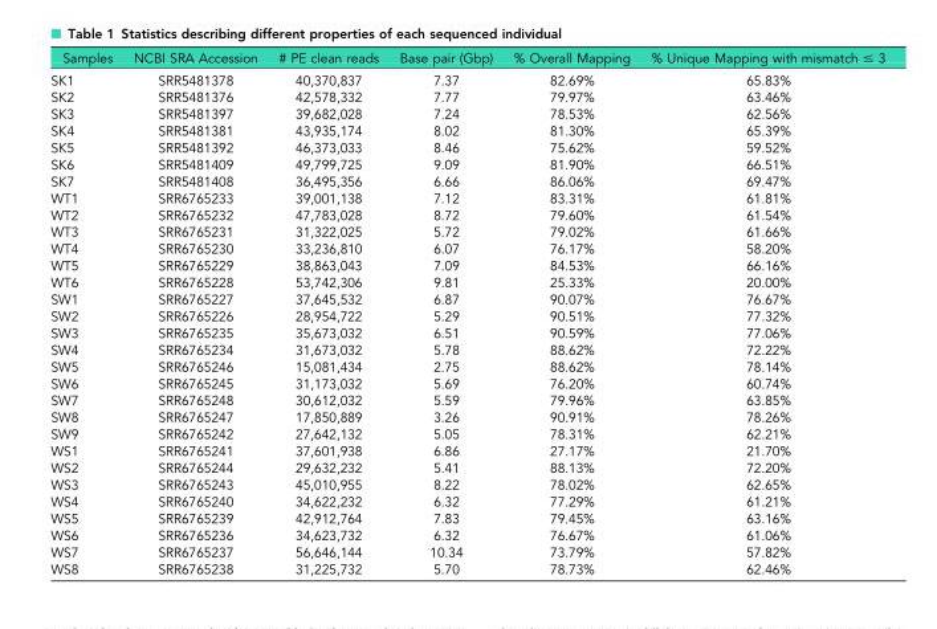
<table><thead><tr><td>Samples</td><td>NCBI SRA Accession</td><td># PE clean reads</td><td>Base pair (Gbp)</td><td>% Overall Mapping</td><td>% Unique Mapping with mismatch ≤ 3</td></tr></thead><tbody><tr><td>SK1</td><td>SRR5481378</td><td>40,370,837</td><td>7.37</td><td>82.69%</td><td>65.83%</td></tr><tr><td>SK2</td><td>SRR5481376</td><td>42,578,332</td><td>7.77</td><td>79.97%</td><td>63.46%</td></tr><tr><td>SK3</td><td>SRR5481397</td><td>39,682,028</td><td>7.24</td><td>78.53%</td><td>62.56%</td></tr><tr><td>SK4</td><td>SRR5481381</td><td>43,935,174</td><td>8.02</td><td>81.30%</td><td>65.39%</td></tr><tr><td>SK5</td><td>SRR5481392</td><td>46,373,033</td><td>8.46</td><td>75.62%</td><td>59.52%</td></tr><tr><td>SK6</td><td>SRR5481409</td><td>49,799,725</td><td>9.09</td><td>81.90%</td><td>66.51%</td></tr><tr><td>SK7</td><td>SRR5481408</td><td>36,495,356</td><td>6.66</td><td>86.06%</td><td>69.47%</td></tr><tr><td>WT1</td><td>SRR6765233</td><td>39,001,138</td><td>7.12</td><td>83.31%</td><td>61.81%</td></tr><tr><td>WT2</td><td>SRR6765232</td><td>47,783,028</td><td>8.72</td><td>79.60%</td><td>61.54%</td></tr><tr><td>WT3</td><td>SRR6765231</td><td>31,322,025</td><td>5.72</td><td>79.02%</td><td>61.66%</td></tr><tr><td>WT4</td><td>SRR6765230</td><td>33,236,810</td><td>6.07</td><td>76.17%</td><td>58.20%</td></tr><tr><td>WT5</td><td>SRR6765229</td><td>38,863,043</td><td>7.09</td><td>84.53%</td><td>66.16%</td></tr><tr><td>WT6</td><td>SRR6765228</td><td>53,742,306</td><td>9.81</td><td>25.33%</td><td>20.00%</td></tr><tr><td>SW1</td><td>SRR6765227</td><td>37,645,532</td><td>6.87</td><td>90.07%</td><td>76.67%</td></tr><tr><td>SW2</td><td>SRR6765226</td><td>28,954,722</td><td>5.29</td><td>90.51%</td><td>77.32%</td></tr><tr><td>SW3</td><td>SRR6765235</td><td>35,673,032</td><td>6.51</td><td>90.59%</td><td>77.06%</td></tr><tr><td>SW4</td><td>SRR6765234</td><td>31,673,032</td><td>5.78</td><td>88.62%</td><td>72.22%</td></tr><tr><td>SW5</td><td>SRR6765246</td><td>15,081,434</td><td>2.75</td><td>88.62%</td><td>78.14%</td></tr><tr><td>SW6</td><td>SRR6765245</td><td>31,173,032</td><td>5.69</td><td>76.20%</td><td>60.74%</td></tr><tr><td>SW7</td><td>SRR6765248</td><td>30,612,032</td><td>5.59</td><td>79.96%</td><td>63.85%</td></tr><tr><td>SW8</td><td>SRR6765247</td><td>17,850,889</td><td>3.26</td><td>90.91%</td><td>78.26%</td></tr><tr><td>SW9</td><td>SRR6765242</td><td>27,642,132</td><td>5.05</td><td>78.31%</td><td>62.21%</td></tr><tr><td>WS1</td><td>SRR6765241</td><td>37,601,938</td><td>6.86</td><td>27.17%</td><td>21.70%</td></tr><tr><td>WS2</td><td>SRR6765244</td><td>29,632,232</td><td>5.41</td><td>88.13%</td><td>72.20%</td></tr><tr><td>WS3</td><td>SRR6765243</td><td>45,010,955</td><td>8.22</td><td>78.02%</td><td>62.65%</td></tr><tr><td>WS4</td><td>SRR6765240</td><td>34,622,232</td><td>6.32</td><td>77.29%</td><td>61.21%</td></tr><tr><td>WS5</td><td>SRR6765239</td><td>42,912,764</td><td>7.83</td><td>79.45%</td><td>63.16%</td></tr><tr><td>WS6</td><td>SRR6765236</td><td>34,623,732</td><td>6.32</td><td>76.67%</td><td>61.06%</td></tr><tr><td>WS7</td><td>SRR6765237</td><td>56,646,144</td><td>10.34</td><td>73.79%</td><td>57.82%</td></tr><tr><td>WS8</td><td>SRR6765238</td><td>31,225,732</td><td>5.70</td><td>78.73%</td><td>62.46%</td></tr></tbody></table>